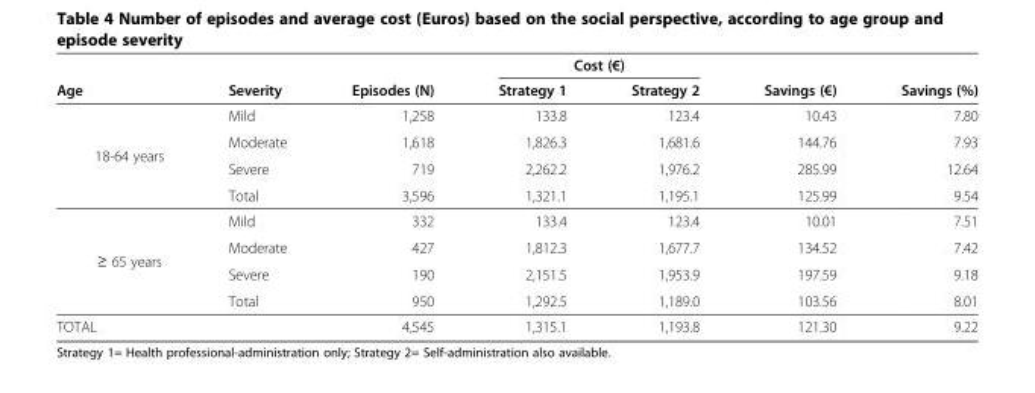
<table><thead><tr><td rowspan="2">Age</td><td rowspan="2">Severity</td><td rowspan="2">Episodes (N)</td><td colspan="2">Cost (€)</td><td rowspan="2">Savings (€)</td><td rowspan="2">Savings (%)</td></tr><tr><td>Strategy 1</td><td>Strategy 2</td></tr></thead><tbody><tr><td rowspan="4">18-64 years</td><td>Mild</td><td>1,258</td><td>133.8</td><td>123.4</td><td>10.43</td><td>7.80</td></tr><tr><td>Moderate</td><td>1,618</td><td>1,826.3</td><td>1,681.6</td><td>144.76</td><td>7.93</td></tr><tr><td>Severe</td><td>719</td><td>2,262.2</td><td>1,976.2</td><td>285.99</td><td>12.64</td></tr><tr><td>Total</td><td>3,596</td><td>1,321.1</td><td>1,195.1</td><td>125.99</td><td>9.54</td></tr><tr><td rowspan="4">≥ 65 years</td><td>Mild</td><td>332</td><td>133.4</td><td>123.4</td><td>10.01</td><td>7.51</td></tr><tr><td>Moderate</td><td>427</td><td>1,812.3</td><td>1,677.7</td><td>134.52</td><td>7.42</td></tr><tr><td>Severe</td><td>190</td><td>2,151.5</td><td>1,953.9</td><td>197.59</td><td>9.18</td></tr><tr><td>Total</td><td>950</td><td>1,292.5</td><td>1,189.0</td><td>103.56</td><td>8.01</td></tr><tr><td>TOTAL</td><td></td><td>4,545</td><td>1,315.1</td><td>1,193.8</td><td>121.30</td><td>9.22</td></tr></tbody></table>